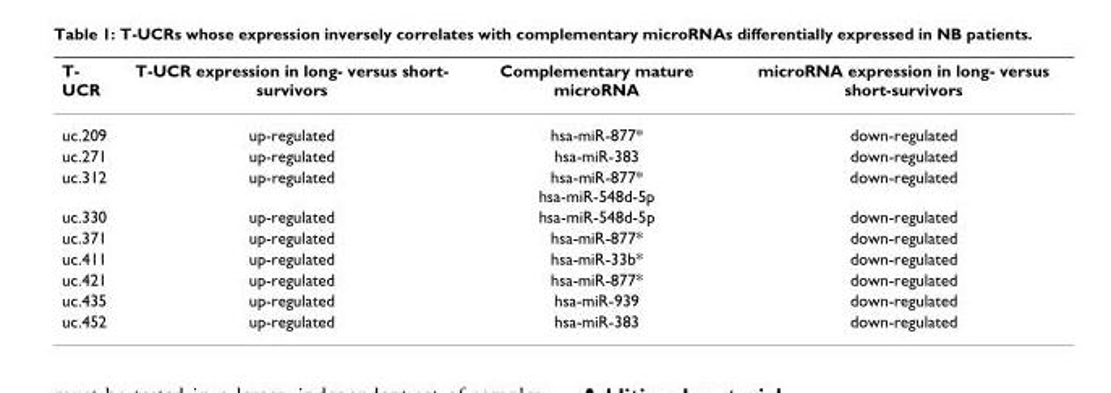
<table><thead><tr><td>T- UCR</td><td>T-UCR expression in long- versus short- survivors</td><td>Complementary mature microRNA</td><td>microRNA expression in long- versus short-survivors</td></tr></thead><tbody><tr><td>uc.209</td><td>up-regulated</td><td>hsa-miR-877*</td><td>down-regulated</td></tr><tr><td>uc.271</td><td>up-regulated</td><td>hsa-miR-383</td><td>down-regulated</td></tr><tr><td>uc.312</td><td>up-regulated</td><td>hsa-miR-877* hsa-miR-548d-5p</td><td>down-regulated</td></tr><tr><td>uc.330</td><td>up-regulated</td><td>hsa-miR-548d-5p</td><td>down-regulated</td></tr><tr><td>uc.371</td><td>up-regulated</td><td>hsa-miR-877*</td><td>down-regulated</td></tr><tr><td>uc.411</td><td>up-regulated</td><td>hsa-miR-33b*</td><td>down-regulated</td></tr><tr><td>uc.421</td><td>up-regulated</td><td>hsa-miR-877*</td><td>down-regulated</td></tr><tr><td>uc.435</td><td>up-regulated</td><td>hsa-miR-939</td><td>down-regulated</td></tr><tr><td>uc.452</td><td>up-regulated</td><td>hsa-miR-383</td><td>down-regulated</td></tr></tbody></table>